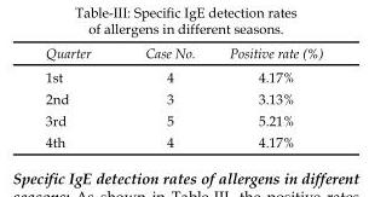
<table><thead><tr><td>Quarter</td><td>Case No.</td><td>Positive rate (%)</td></tr></thead><tbody><tr><td>1st</td><td>4</td><td>4.17%</td></tr><tr><td>2nd</td><td>3</td><td>3.13%</td></tr><tr><td>3rd</td><td>5</td><td>5.21%</td></tr><tr><td>4th</td><td>4</td><td>4.17%</td></tr></tbody></table>